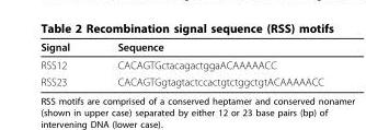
<table><thead><tr><td>Signal</td><td>Sequence</td></tr></thead><tbody><tr><td>RSS12</td><td>CACAGTGctacagactggaACAAAAACC</td></tr><tr><td>RSS23</td><td>CACAGTGgtagtactccactgtctggctgtACAAAAACC</td></tr></tbody></table>